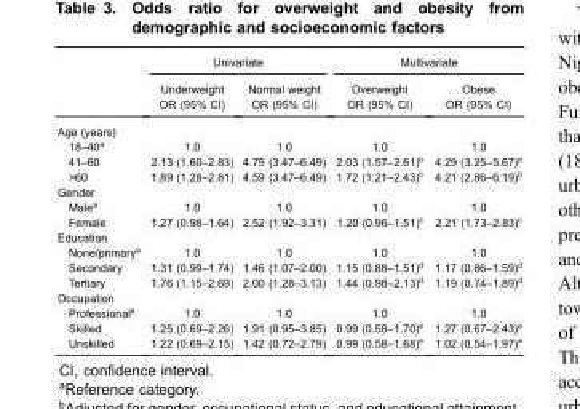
<table><thead><tr><td rowspan="3"></td><td colspan="2">Univariate</td><td colspan="2">Multivariate</td></tr><tr><td rowspan="2">Underweight OR (95% CI)</td><td rowspan="2">Normal weight OR (95% CI)</td><td rowspan="2">Overweight OR (95% CI)</td><td rowspan="2">Obese OR (95% CI)</td></tr><tr></tr></thead><tbody><tr><td colspan="5">Age (years)</td></tr><tr><td>18–40<sup>a</sup></td><td>1.0</td><td>1.0</td><td>1.0</td><td>1.0</td></tr><tr><td>41–60</td><td>2.13 (1.60–2.83)</td><td>4.75 (3.47–6.49)</td><td>2.03 (1.57–2.61)<sup>b</sup></td><td>4.29 (3.25–5.67)<sup>b</sup></td></tr><tr><td>&gt;60</td><td>1.89 (1.28–2.81)</td><td>4.59 (3.47–6.49)</td><td>1.72 (1.21–2.43)<sup>b</sup></td><td>4.21 (2.86–6.19)<sup>b</sup></td></tr><tr><td colspan="5">Gender</td></tr><tr><td>Male<sup>a</sup></td><td>1.0</td><td>1.0</td><td>1.0</td><td>1.0</td></tr><tr><td>Female</td><td>1.27 (0.98–1.64)</td><td>2.52 (1.92–3.31)</td><td>1.20 (0.96–1.51)<sup>c</sup></td><td>2.21 (1.73–2.83)<sup>c</sup></td></tr><tr><td colspan="5">Education</td></tr><tr><td>None/primary<sup>a</sup></td><td>1.0</td><td>1.0</td><td>1.0</td><td>1.0</td></tr><tr><td>Secondary</td><td>1.31 (0.99–1.74)</td><td>1.46 (1.07–2.00)</td><td>1.15 (0.88–1.51)<sup>d</sup></td><td>1.17 (0.86–1.59)<sup>d</sup></td></tr><tr><td>Tertiary</td><td>1.76 (1.15–2.69)</td><td>2.00 (1.28–3.13)</td><td>1.44 (0.98–2.13)<sup>d</sup></td><td>1.19 (0.74–1.89)<sup>d</sup></td></tr><tr><td colspan="5">Occupation</td></tr><tr><td>Professional<sup>a</sup></td><td>1.0</td><td>1.0</td><td>1.0</td><td>1.0</td></tr><tr><td>Skilled</td><td>1.25 (0.69–2.26)</td><td>1.91 (0.95–3.85)</td><td>0.99 (0.58–1.70)<sup>e</sup></td><td>1.27 (0.67–2.43)<sup>e</sup></td></tr><tr><td>Unskilled</td><td>1.22 (0.69–2.15)</td><td>1.42 (0.72–2.79)</td><td>0.99 (0.58–1.68)<sup>e</sup></td><td>1.02 (0.54–1.97)<sup>e</sup></td></tr></tbody></table>